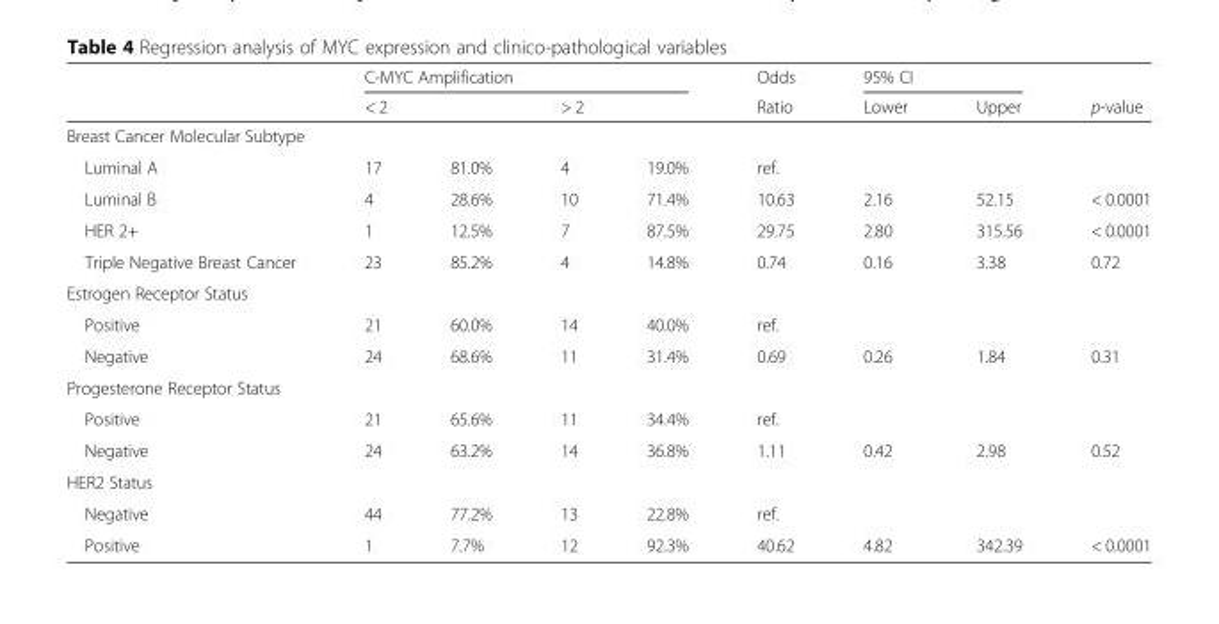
<table><thead><tr><td rowspan="2"></td><td colspan="4">C-MYC Amplification</td><td rowspan="2">Odds Ratio</td><td colspan="2">95% CI</td><td rowspan="2">p-value</td></tr><tr><td colspan="2">&lt; 2</td><td colspan="2">&gt; 2</td><td>Lower</td><td>Upper</td></tr><tr><td colspan="9">Breast Cancer Molecular Subtype</td></tr><tr><td>Luminal A</td><td>17</td><td>81.0%</td><td>4</td><td>19.0%</td><td>ref.</td><td></td><td></td><td></td></tr></thead><tbody><tr><td>Luminal B</td><td>4</td><td>28.6%</td><td>10</td><td>71.4%</td><td>10.63</td><td>2.16</td><td>52.15</td><td>&lt; 0.0001</td></tr><tr><td>HER 2+</td><td>1</td><td>12.5%</td><td>7</td><td>87.5%</td><td>29.75</td><td>2.80</td><td>315.56</td><td>&lt; 0.0001</td></tr><tr><td>Triple Negative Breast Cancer</td><td>23</td><td>85.2%</td><td>4</td><td>14.8%</td><td>0.74</td><td>0.16</td><td>3.38</td><td>0.72</td></tr><tr><td colspan="9">Estrogen Receptor Status</td></tr><tr><td>Positive</td><td>21</td><td>60.0%</td><td>14</td><td>40.0%</td><td>ref.</td><td></td><td></td><td></td></tr><tr><td>Negative</td><td>24</td><td>68.6%</td><td>11</td><td>31.4%</td><td>0.69</td><td>0.26</td><td>1.84</td><td>0.31</td></tr><tr><td colspan="9">Progesterone Receptor Status</td></tr><tr><td>Positive</td><td>21</td><td>65.6%</td><td>11</td><td>34.4%</td><td>ref.</td><td></td><td></td><td></td></tr><tr><td>Negative</td><td>24</td><td>63.2%</td><td>14</td><td>36.8%</td><td>1.11</td><td>0.42</td><td>2.98</td><td>0.52</td></tr><tr><td colspan="9">HER2 Status</td></tr><tr><td>Negative</td><td>44</td><td>77.2%</td><td>13</td><td>22.8%</td><td>ref.</td><td></td><td></td><td></td></tr><tr><td>Positive</td><td>1</td><td>7.7%</td><td>12</td><td>92.3%</td><td>40.62</td><td>4.82</td><td>342.39</td><td>&lt; 0.0001</td></tr></tbody></table>